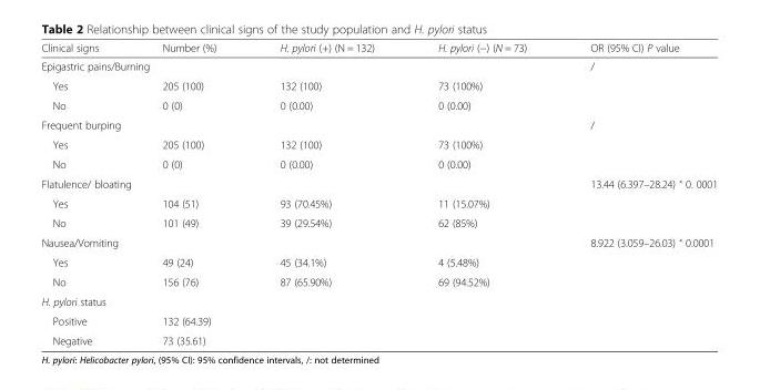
<table><thead><tr><td>Clinical signs</td><td>Number (%)</td><td>H. pylori (+) (N = 132)</td><td>H. pylori (−) (N = 73)</td><td>OR (95% CI) P value</td></tr></thead><tbody><tr><td colspan="4">Epigastric pains/Burning</td><td rowspan="3">/</td></tr><tr><td>Yes</td><td>205 (100)</td><td>132 (100)</td><td>73 (100%)</td></tr><tr><td>No</td><td>0 (0)</td><td>0 (0.00)</td><td>0 (0.00)</td></tr><tr><td colspan="4">Frequent burping</td><td rowspan="3">/</td></tr><tr><td>Yes</td><td>205 (100)</td><td>132 (100)</td><td>73 (100%)</td></tr><tr><td>No</td><td>0 (0)</td><td>0 (0.00)</td><td>0 (0.00)</td></tr><tr><td colspan="4">Flatulence/ bloating</td><td rowspan="3">13.44 (6.397–28.24) ˂ 0. 0001</td></tr><tr><td>Yes</td><td>104 (51)</td><td>93 (70.45%)</td><td>11 (15.07%)</td></tr><tr><td>No</td><td>101 (49)</td><td>39 (29.54%)</td><td>62 (85%)</td></tr><tr><td colspan="4">Nausea/Vomiting</td><td rowspan="3">8.922 (3.059–26.03) ˂ 0.0001</td></tr><tr><td>Yes</td><td>49 (24)</td><td>45 (34.1%)</td><td>4 (5.48%)</td></tr><tr><td>No</td><td>156 (76)</td><td>87 (65.90%)</td><td>69 (94.52%)</td></tr><tr><td colspan="5">H. pylori status</td></tr><tr><td>Positive</td><td colspan="4">132 (64.39)</td></tr><tr><td>Negative</td><td colspan="4">73 (35.61)</td></tr></tbody></table>